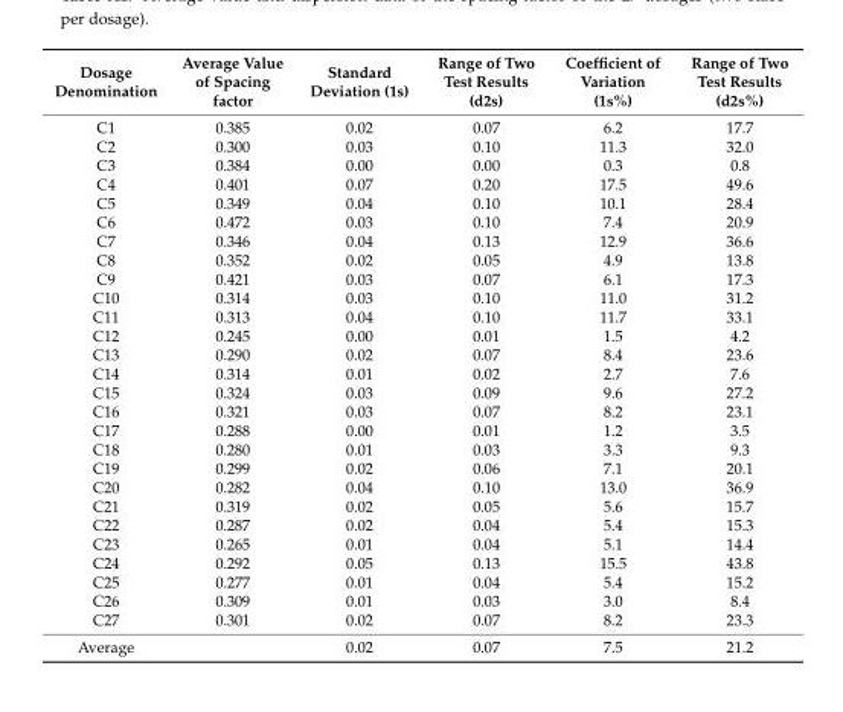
<table><thead><tr><td>Dosage Denomination</td><td>Average Value of Spacing factor</td><td>Standard Deviation (1s)</td><td>Range of Two Test Results (d2s)</td><td>Coefficient of Variation (1s%)</td><td>Range of Two Test Results (d2s%)</td></tr></thead><tbody><tr><td>C1</td><td>0.385</td><td>0.02</td><td>0.07</td><td>6.2</td><td>17.7</td></tr><tr><td>C2</td><td>0.300</td><td>0.03</td><td>0.10</td><td>11.3</td><td>32.0</td></tr><tr><td>C3</td><td>0.384</td><td>0.00</td><td>0.00</td><td>0.3</td><td>0.8</td></tr><tr><td>C4</td><td>0.401</td><td>0.07</td><td>0.20</td><td>17.5</td><td>49.6</td></tr><tr><td>C5</td><td>0.349</td><td>0.04</td><td>0.10</td><td>10.1</td><td>28.4</td></tr><tr><td>C6</td><td>0.472</td><td>0.03</td><td>0.10</td><td>7.4</td><td>20.9</td></tr><tr><td>C7</td><td>0.346</td><td>0.04</td><td>0.13</td><td>12.9</td><td>36.6</td></tr><tr><td>C8</td><td>0.352</td><td>0.02</td><td>0.05</td><td>4.9</td><td>13.8</td></tr><tr><td>C9</td><td>0.421</td><td>0.03</td><td>0.07</td><td>6.1</td><td>17.3</td></tr><tr><td>C10</td><td>0.314</td><td>0.03</td><td>0.10</td><td>11.0</td><td>31.2</td></tr><tr><td>C11</td><td>0.313</td><td>0.04</td><td>0.10</td><td>11.7</td><td>33.1</td></tr><tr><td>C12</td><td>0.245</td><td>0.00</td><td>0.01</td><td>1.5</td><td>4.2</td></tr><tr><td>C13</td><td>0.290</td><td>0.02</td><td>0.07</td><td>8.4</td><td>23.6</td></tr><tr><td>C14</td><td>0.314</td><td>0.01</td><td>0.02</td><td>2.7</td><td>7.6</td></tr><tr><td>C15</td><td>0.324</td><td>0.03</td><td>0.09</td><td>9.6</td><td>27.2</td></tr><tr><td>C16</td><td>0.321</td><td>0.03</td><td>0.07</td><td>8.2</td><td>23.1</td></tr><tr><td>C17</td><td>0.288</td><td>0.00</td><td>0.01</td><td>1.2</td><td>3.5</td></tr><tr><td>C18</td><td>0.280</td><td>0.01</td><td>0.03</td><td>3.3</td><td>9.3</td></tr><tr><td>C19</td><td>0.299</td><td>0.02</td><td>0.06</td><td>7.1</td><td>20.1</td></tr><tr><td>C20</td><td>0.282</td><td>0.04</td><td>0.10</td><td>13.0</td><td>36.9</td></tr><tr><td>C21</td><td>0.319</td><td>0.02</td><td>0.05</td><td>5.6</td><td>15.7</td></tr><tr><td>C22</td><td>0.287</td><td>0.02</td><td>0.04</td><td>5.4</td><td>15.3</td></tr><tr><td>C23</td><td>0.265</td><td>0.01</td><td>0.04</td><td>5.1</td><td>14.4</td></tr><tr><td>C24</td><td>0.292</td><td>0.05</td><td>0.13</td><td>15.5</td><td>43.8</td></tr><tr><td>C25</td><td>0.277</td><td>0.01</td><td>0.04</td><td>5.4</td><td>15.2</td></tr><tr><td>C26</td><td>0.309</td><td>0.01</td><td>0.03</td><td>3.0</td><td>8.4</td></tr><tr><td>C27</td><td>0.301</td><td>0.02</td><td>0.07</td><td>8.2</td><td>23.3</td></tr><tr><td>Average</td><td></td><td>0.02</td><td>0.07</td><td>7.5</td><td>21.2</td></tr></tbody></table>